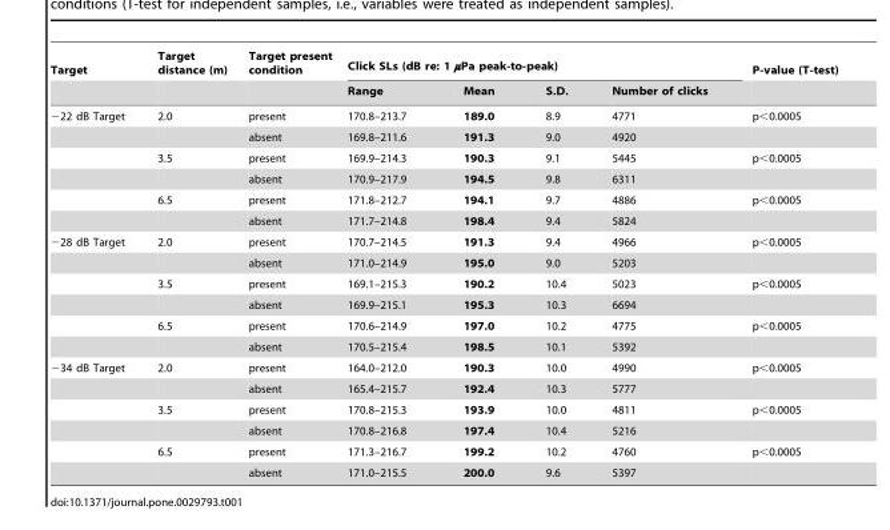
<table><thead><tr><td rowspan="2">Target</td><td rowspan="2">Target distance (m)</td><td rowspan="2">Target present condition</td><td colspan="4">Click SLs (dB re: 1 μPa peak-to-peak)</td><td rowspan="2">P-value (T-test)</td></tr><tr><td>Range</td><td>Mean</td><td>S.D.</td><td>Number of clicks</td></tr></thead><tbody><tr><td rowspan="6">−22 dB Target</td><td>2.0</td><td>present</td><td>170.8–213.7</td><td>189.0</td><td>8.9</td><td>4771</td><td>p&lt;0.0005</td></tr><tr><td></td><td>absent</td><td>169.8–211.6</td><td>191.3</td><td>9.0</td><td>4920</td><td></td></tr><tr><td>3.5</td><td>present</td><td>169.9–214.3</td><td>190.3</td><td>9.1</td><td>5445</td><td>p&lt;0.0005</td></tr><tr><td></td><td>absent</td><td>170.9–217.9</td><td>194.5</td><td>9.8</td><td>6311</td><td></td></tr><tr><td>6.5</td><td>present</td><td>171.8–212.7</td><td>194.1</td><td>9.7</td><td>4886</td><td>p&lt;0.0005</td></tr><tr><td></td><td>absent</td><td>171.7–214.8</td><td>198.4</td><td>9.4</td><td>5824</td><td></td></tr><tr><td rowspan="6">−28 dB Target</td><td>2.0</td><td>present</td><td>170.7–214.5</td><td>191.3</td><td>9.4</td><td>4966</td><td>p&lt;0.0005</td></tr><tr><td></td><td>absent</td><td>171.0–214.9</td><td>195.0</td><td>9.0</td><td>5203</td><td></td></tr><tr><td>3.5</td><td>present</td><td>169.1–215.3</td><td>190.2</td><td>10.4</td><td>5023</td><td>p&lt;0.0005</td></tr><tr><td></td><td>absent</td><td>169.9–215.1</td><td>195.3</td><td>10.3</td><td>6694</td><td></td></tr><tr><td>6.5</td><td>present</td><td>170.6–214.9</td><td>197.0</td><td>10.2</td><td>4775</td><td>p&lt;0.0005</td></tr><tr><td></td><td>absent</td><td>170.5–215.4</td><td>198.5</td><td>10.1</td><td>5392</td><td></td></tr><tr><td rowspan="6">−34 dB Target</td><td>2.0</td><td>present</td><td>164.0–212.0</td><td>190.3</td><td>10.0</td><td>4990</td><td>p&lt;0.0005</td></tr><tr><td></td><td>absent</td><td>165.4–215.7</td><td>192.4</td><td>10.3</td><td>5777</td><td></td></tr><tr><td>3.5</td><td>present</td><td>170.8–215.3</td><td>193.9</td><td>10.0</td><td>4811</td><td>p&lt;0.0005</td></tr><tr><td></td><td>absent</td><td>170.8–216.8</td><td>197.4</td><td>10.4</td><td>5216</td><td></td></tr><tr><td>6.5</td><td>present</td><td>171.3–216.7</td><td>199.2</td><td>10.2</td><td>4760</td><td>p&lt;0.0005</td></tr><tr><td></td><td>absent</td><td>171.0–215.5</td><td>200.0</td><td>9.6</td><td>5397</td><td></td></tr></tbody></table>